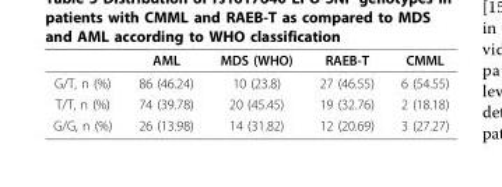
<table><thead><tr><td></td><td>AML</td><td>MDS (WHO)</td><td>RAEB-T</td><td>CMML</td></tr></thead><tbody><tr><td>G/T, n (%)</td><td>86 (46.24)</td><td>10 (23.8)</td><td>27 (46.55)</td><td>6 (54.55)</td></tr><tr><td>T/T, n (%)</td><td>74 (39.78)</td><td>20 (45.45)</td><td>19 (32.76)</td><td>2 (18.18)</td></tr><tr><td>G/G, n (%)</td><td>26 (13.98)</td><td>14 (31.82)</td><td>12 (20.69)</td><td>3 (27.27)</td></tr></tbody></table>